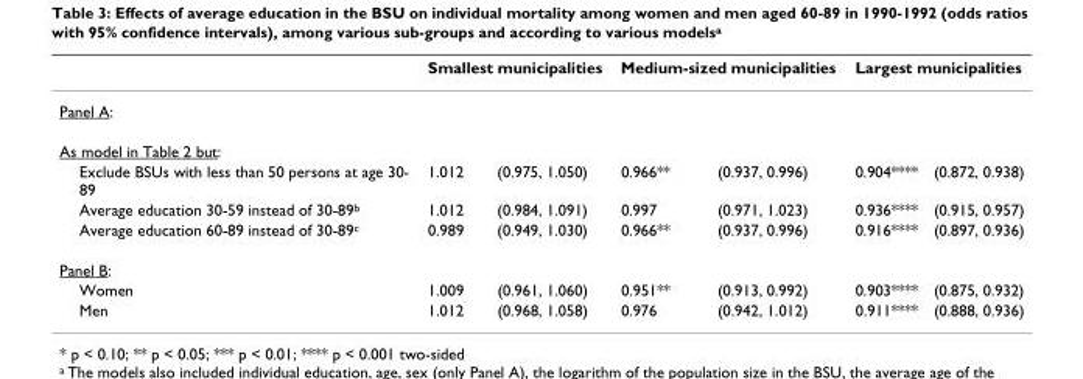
<table><thead><tr><td rowspan="2">Panel A:</td><td colspan="2">Smallest municipalities</td><td colspan="2">Medium-sized municipalities</td><td colspan="2">Largest municipalities</td></tr><tr><td></td><td></td><td></td><td></td><td></td><td></td></tr></thead><tbody><tr><td colspan="7">As model in Table 2 but:</td></tr><tr><td>Exclude BSUs with less than 50 persons at age 30- 89</td><td>1.012</td><td>(0.975, 1.050)</td><td>0.966**</td><td>(0.937, 0.996)</td><td>0.904****</td><td>(0.872, 0.938)</td></tr><tr><td>Average education 30-59 instead of 30-89<sup>b</sup></td><td>1.012</td><td>(0.984, 1.091)</td><td>0.997</td><td>(0.971, 1.023)</td><td>0.936****</td><td>(0.915, 0.957)</td></tr><tr><td>Average education 60-89 instead of 30-89<sup>c</sup></td><td>0.989</td><td>(0.949, 1.030)</td><td>0.966**</td><td>(0.937, 0.996)</td><td>0.916****</td><td>(0.897, 0.936)</td></tr><tr><td colspan="7">Panel B:</td></tr><tr><td>Women</td><td>1.009</td><td>(0.961, 1.060)</td><td>0.951**</td><td>(0.913, 0.992)</td><td>0.903****</td><td>(0.875, 0.932)</td></tr><tr><td>Men</td><td>1.012</td><td>(0.968, 1.058)</td><td>0.976</td><td>(0.942, 1.012)</td><td>0.911****</td><td>(0.888, 0.936)</td></tr></tbody></table>